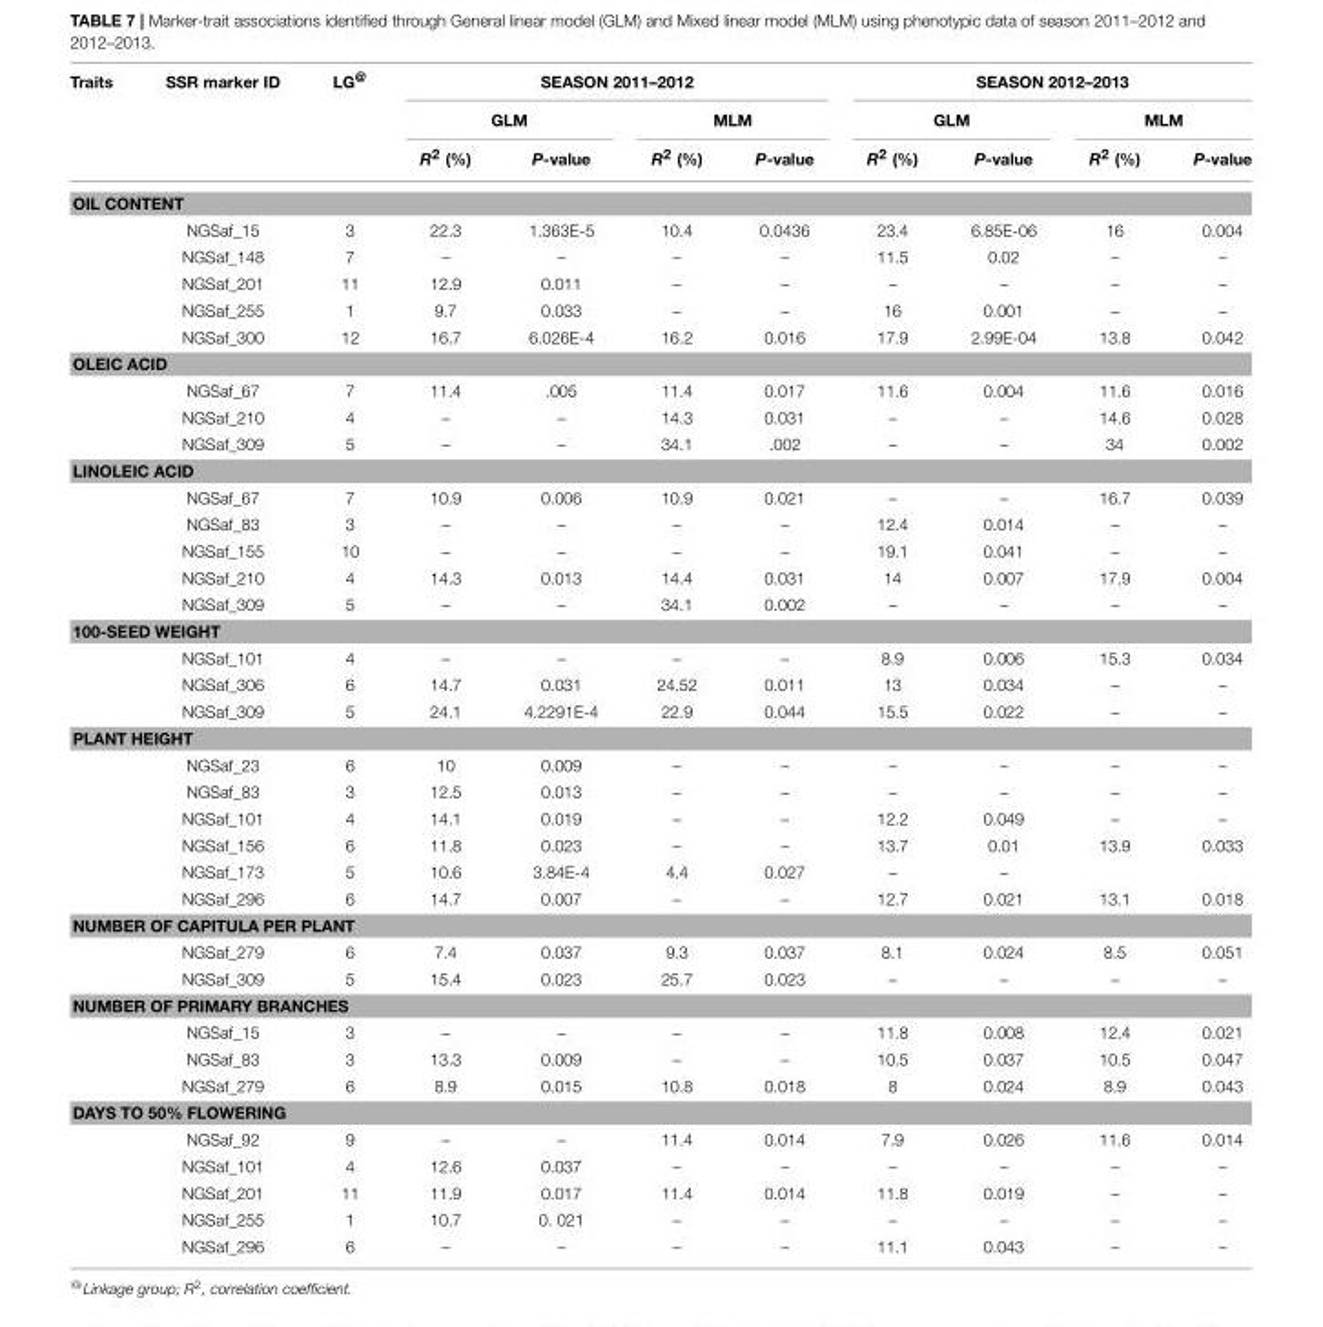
<table><thead><tr><td rowspan="3">Traits</td><td rowspan="3">SSR marker ID</td><td rowspan="3">LG<sup>@</sup></td><td colspan="4">SEASON 2011–2012</td><td colspan="4">SEASON 2012–2013</td></tr><tr><td colspan="2">GLM</td><td colspan="2">MLM</td><td colspan="2">GLM</td><td colspan="2">MLM</td></tr><tr><td>R<sup>2</sup> (%)</td><td>P-value</td><td>R<sup>2</sup> (%)</td><td>P-value</td><td>R<sup>2</sup> (%)</td><td>P-value</td><td>R<sup>2</sup> (%)</td><td>P-value</td></tr></thead><tbody><tr><td colspan="11">OIL CONTENT</td></tr><tr><td></td><td>NGSaf_15</td><td>3</td><td>22.3</td><td>1.363E-5</td><td>10.4</td><td>0.0436</td><td>23.4</td><td>6.85E-06</td><td>16</td><td>0.004</td></tr><tr><td></td><td>NGSaf_148</td><td>7</td><td>–</td><td>–</td><td>–</td><td>–</td><td>11.5</td><td>0.02</td><td>–</td><td>–</td></tr><tr><td></td><td>NGSaf_201</td><td>11</td><td>12.9</td><td>0.011</td><td>–</td><td>–</td><td>–</td><td>–</td><td>–</td><td>–</td></tr><tr><td></td><td>NGSaf_255</td><td>1</td><td>9.7</td><td>0.033</td><td>–</td><td>–</td><td>16</td><td>0.001</td><td>–</td><td>–</td></tr><tr><td></td><td>NGSaf_300</td><td>12</td><td>16.7</td><td>6.026E-4</td><td>16.2</td><td>0.016</td><td>17.9</td><td>2.99E-04</td><td>13.8</td><td>0.042</td></tr><tr><td colspan="11">OLEIC ACID</td></tr><tr><td></td><td>NGSaf_67</td><td>7</td><td>11.4</td><td>.005</td><td>11.4</td><td>0.017</td><td>11.6</td><td>0.004</td><td>11.6</td><td>0.016</td></tr><tr><td></td><td>NGSaf_210</td><td>4</td><td>–</td><td>–</td><td>14.3</td><td>0.031</td><td>–</td><td>–</td><td>14.6</td><td>0.028</td></tr><tr><td></td><td>NGSaf_309</td><td>5</td><td>–</td><td>–</td><td>34.1</td><td>.002</td><td>–</td><td>–</td><td>34</td><td>0.002</td></tr><tr><td colspan="11">LINOLEIC ACID</td></tr><tr><td></td><td>NGSaf_67</td><td>7</td><td>10.9</td><td>0.006</td><td>10.9</td><td>0.021</td><td>–</td><td>–</td><td>16.7</td><td>0.039</td></tr><tr><td></td><td>NGSaf_83</td><td>3</td><td>–</td><td>–</td><td>–</td><td>–</td><td>12.4</td><td>0.014</td><td>–</td><td>–</td></tr><tr><td></td><td>NGSaf_155</td><td>10</td><td>–</td><td>–</td><td>–</td><td>–</td><td>19.1</td><td>0.041</td><td>–</td><td>–</td></tr><tr><td></td><td>NGSaf_210</td><td>4</td><td>14.3</td><td>0.013</td><td>14.4</td><td>0.031</td><td>14</td><td>0.007</td><td>17.9</td><td>0.004</td></tr><tr><td></td><td>NGSaf_309</td><td>5</td><td>–</td><td>–</td><td>34.1</td><td>0.002</td><td>–</td><td>–</td><td>–</td><td>–</td></tr><tr><td colspan="11">100-SEED WEIGHT</td></tr><tr><td></td><td>NGSaf_101</td><td>4</td><td>–</td><td>–</td><td>–</td><td>–</td><td>8.9</td><td>0.006</td><td>15.3</td><td>0.034</td></tr><tr><td></td><td>NGSaf_306</td><td>6</td><td>14.7</td><td>0.031</td><td>24.52</td><td>0.011</td><td>13</td><td>0.034</td><td>–</td><td>–</td></tr><tr><td></td><td>NGSaf_309</td><td>5</td><td>24.1</td><td>4.2291E-4</td><td>22.9</td><td>0.044</td><td>15.5</td><td>0.022</td><td>–</td><td>–</td></tr><tr><td colspan="11">PLANT HEIGHT</td></tr><tr><td></td><td>NGSaf_23</td><td>6</td><td>10</td><td>0.009</td><td>–</td><td>–</td><td>–</td><td>–</td><td>–</td><td>–</td></tr><tr><td></td><td>NGSaf_83</td><td>3</td><td>12.5</td><td>0.013</td><td>–</td><td>–</td><td>–</td><td>–</td><td>–</td><td>–</td></tr><tr><td></td><td>NGSaf_101</td><td>4</td><td>14.1</td><td>0.019</td><td>–</td><td>–</td><td>12.2</td><td>0.049</td><td>–</td><td>–</td></tr><tr><td></td><td>NGSaf_156</td><td>6</td><td>11.8</td><td>0.023</td><td>–</td><td>–</td><td>13.7</td><td>0.01</td><td>13.9</td><td>0.033</td></tr><tr><td></td><td>NGSaf_173</td><td>5</td><td>10.6</td><td>3.84E-4</td><td>4.4</td><td>0.027</td><td>–</td><td>–</td><td></td><td></td></tr><tr><td></td><td>NGSaf_296</td><td>6</td><td>14.7</td><td>0.007</td><td>–</td><td>–</td><td>12.7</td><td>0.021</td><td>13.1</td><td>0.018</td></tr><tr><td colspan="11">NUMBER OF CAPITULA PER PLANT</td></tr><tr><td></td><td>NGSaf_279</td><td>6</td><td>7.4</td><td>0.037</td><td>9.3</td><td>0.037</td><td>8.1</td><td>0.024</td><td>8.5</td><td>0.051</td></tr><tr><td></td><td>NGSaf_309</td><td>5</td><td>15.4</td><td>0.023</td><td>25.7</td><td>0.023</td><td>–</td><td>–</td><td>–</td><td>–</td></tr><tr><td colspan="11">NUMBER OF PRIMARY BRANCHES</td></tr><tr><td></td><td>NGSaf_15</td><td>3</td><td>–</td><td>–</td><td>–</td><td>–</td><td>11.8</td><td>0.008</td><td>12.4</td><td>0.021</td></tr><tr><td></td><td>NGSaf_83</td><td>3</td><td>13.3</td><td>0.009</td><td>–</td><td>–</td><td>10.5</td><td>0.037</td><td>10.5</td><td>0.047</td></tr><tr><td></td><td>NGSaf_279</td><td>6</td><td>8.9</td><td>0.015</td><td>10.8</td><td>0.018</td><td>8</td><td>0.024</td><td>8.9</td><td>0.043</td></tr><tr><td colspan="11">DAYS TO 50% FLOWERING</td></tr><tr><td></td><td>NGSaf_92</td><td>9</td><td>–</td><td>–</td><td>11.4</td><td>0.014</td><td>7.9</td><td>0.026</td><td>11.6</td><td>0.014</td></tr><tr><td></td><td>NGSaf_101</td><td>4</td><td>12.6</td><td>0.037</td><td>–</td><td>–</td><td>–</td><td>–</td><td>–</td><td>–</td></tr><tr><td></td><td>NGSaf_201</td><td>11</td><td>11.9</td><td>0.017</td><td>11.4</td><td>0.014</td><td>11.8</td><td>0.019</td><td>–</td><td>–</td></tr><tr><td></td><td>NGSaf_255</td><td>1</td><td>10.7</td><td>0. 021</td><td>–</td><td>–</td><td>–</td><td>–</td><td>–</td><td>–</td></tr><tr><td></td><td>NGSaf_296</td><td>6</td><td>–</td><td>–</td><td>–</td><td>–</td><td>11.1</td><td>0.043</td><td>–</td><td>–</td></tr></tbody></table>